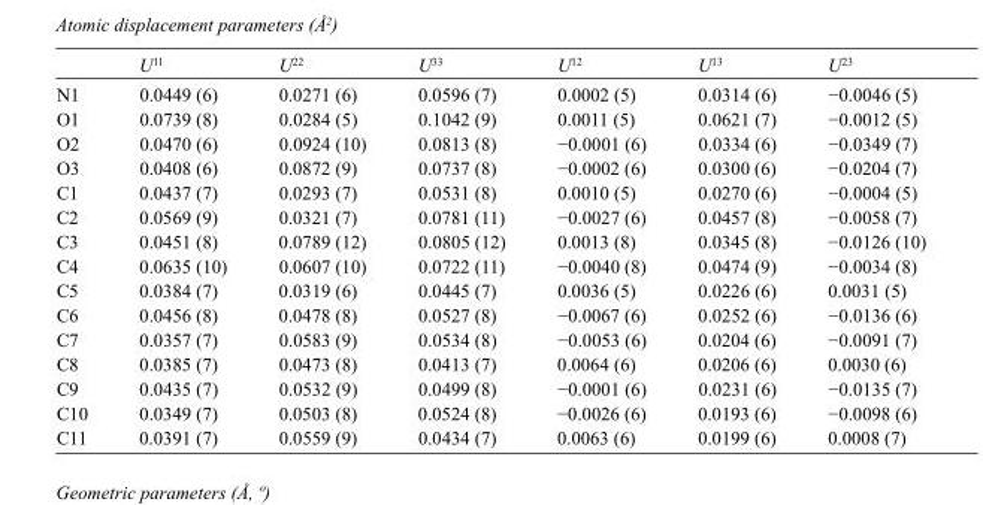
<table><thead><tr><td></td><td>U<sup>11</sup></td><td>U<sup>22</sup></td><td>U<sup>33</sup></td><td>U<sup>12</sup></td><td>U<sup>13</sup></td><td>U<sup>23</sup></td></tr></thead><tbody><tr><td>N1</td><td>0.0449 (6)</td><td>0.0271 (6)</td><td>0.0596 (7)</td><td>0.0002 (5)</td><td>0.0314 (6)</td><td>−0.0046 (5)</td></tr><tr><td>O1</td><td>0.0739 (8)</td><td>0.0284 (5)</td><td>0.1042 (9)</td><td>0.0011 (5)</td><td>0.0621 (7)</td><td>−0.0012 (5)</td></tr><tr><td>O2</td><td>0.0470 (6)</td><td>0.0924 (10)</td><td>0.0813 (8)</td><td>−0.0001 (6)</td><td>0.0334 (6)</td><td>−0.0349 (7)</td></tr><tr><td>O3</td><td>0.0408 (6)</td><td>0.0872 (9)</td><td>0.0737 (8)</td><td>−0.0002 (6)</td><td>0.0300 (6)</td><td>−0.0204 (7)</td></tr><tr><td>C1</td><td>0.0437 (7)</td><td>0.0293 (7)</td><td>0.0531 (8)</td><td>0.0010 (5)</td><td>0.0270 (6)</td><td>−0.0004 (5)</td></tr><tr><td>C2</td><td>0.0569 (9)</td><td>0.0321 (7)</td><td>0.0781 (11)</td><td>−0.0027 (6)</td><td>0.0457 (8)</td><td>−0.0058 (7)</td></tr><tr><td>C3</td><td>0.0451 (8)</td><td>0.0789 (12)</td><td>0.0805 (12)</td><td>0.0013 (8)</td><td>0.0345 (8)</td><td>−0.0126 (10)</td></tr><tr><td>C4</td><td>0.0635 (10)</td><td>0.0607 (10)</td><td>0.0722 (11)</td><td>−0.0040 (8)</td><td>0.0474 (9)</td><td>−0.0034 (8)</td></tr><tr><td>C5</td><td>0.0384 (7)</td><td>0.0319 (6)</td><td>0.0445 (7)</td><td>0.0036 (5)</td><td>0.0226 (6)</td><td>0.0031 (5)</td></tr><tr><td>C6</td><td>0.0456 (8)</td><td>0.0478 (8)</td><td>0.0527 (8)</td><td>−0.0067 (6)</td><td>0.0252 (6)</td><td>−0.0136 (6)</td></tr><tr><td>C7</td><td>0.0357 (7)</td><td>0.0583 (9)</td><td>0.0534 (8)</td><td>−0.0053 (6)</td><td>0.0204 (6)</td><td>−0.0091 (7)</td></tr><tr><td>C8</td><td>0.0385 (7)</td><td>0.0473 (8)</td><td>0.0413 (7)</td><td>0.0064 (6)</td><td>0.0206 (6)</td><td>0.0030 (6)</td></tr><tr><td>C9</td><td>0.0435 (7)</td><td>0.0532 (9)</td><td>0.0499 (8)</td><td>−0.0001 (6)</td><td>0.0231 (6)</td><td>−0.0135 (7)</td></tr><tr><td>C10</td><td>0.0349 (7)</td><td>0.0503 (8)</td><td>0.0524 (8)</td><td>−0.0026 (6)</td><td>0.0193 (6)</td><td>−0.0098 (6)</td></tr><tr><td>C11</td><td>0.0391 (7)</td><td>0.0559 (9)</td><td>0.0434 (7)</td><td>0.0063 (6)</td><td>0.0199 (6)</td><td>0.0008 (7)</td></tr></tbody></table>